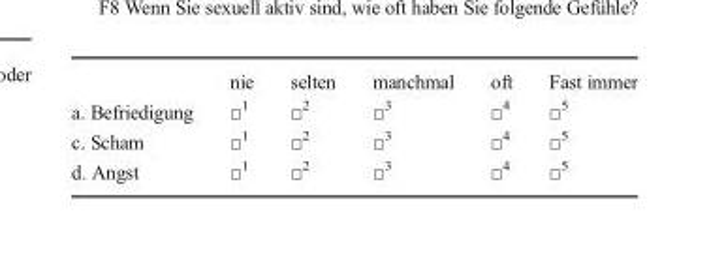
<table><thead><tr><td></td><td>nie</td><td>selten</td><td>manchmal</td><td>oft</td><td>Fast immer</td></tr></thead><tbody><tr><td>a. Befriedigung</td><td>□<sup>1</sup></td><td>□<sup>2</sup></td><td>□<sup>3</sup></td><td>□<sup>4</sup></td><td>□<sup>5</sup></td></tr><tr><td>c. Scham</td><td>□<sup>1</sup></td><td>□<sup>2</sup></td><td>□<sup>3</sup></td><td>□<sup>4</sup></td><td>□<sup>5</sup></td></tr><tr><td>d. Angst</td><td>□<sup>1</sup></td><td>□<sup>2</sup></td><td>□<sup>3</sup></td><td>□<sup>4</sup></td><td>□<sup>5</sup></td></tr></tbody></table>